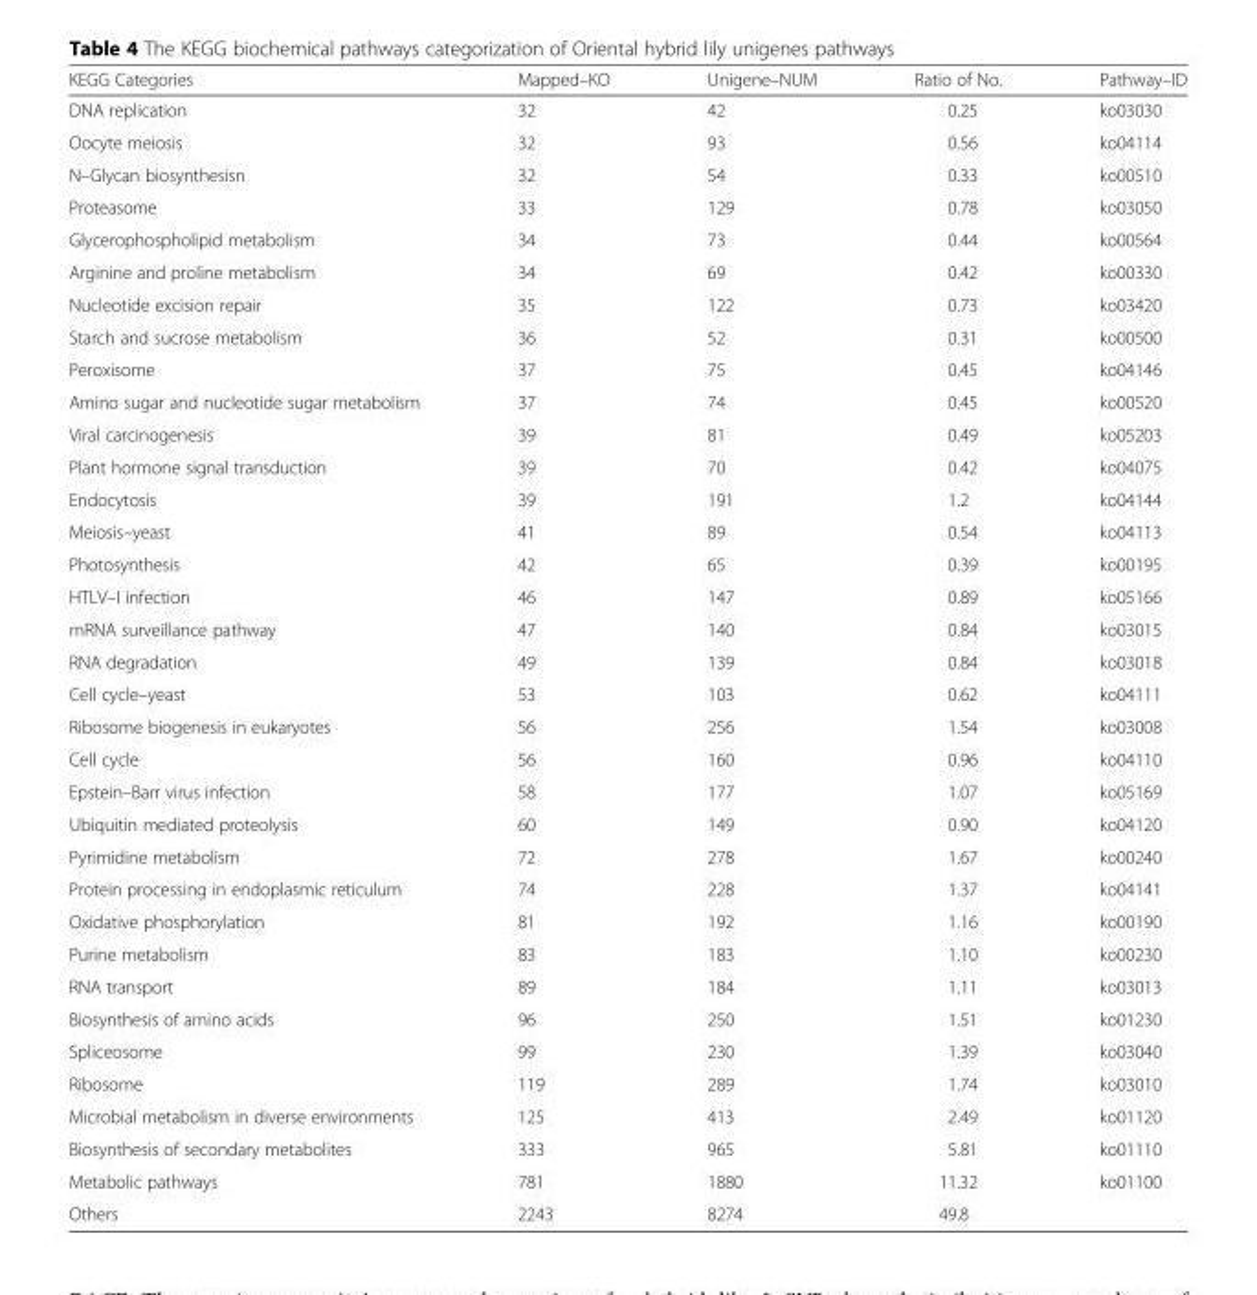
<table><thead><tr><td>KEGG Categories</td><td>Mapped–KO</td><td>Unigene–NUM</td><td>Ratio of No.</td><td>Pathway–ID</td></tr></thead><tbody><tr><td>DNA replication</td><td>32</td><td>42</td><td>0.25</td><td>ko03030</td></tr><tr><td>Oocyte meiosis</td><td>32</td><td>93</td><td>0.56</td><td>ko04114</td></tr><tr><td>N–Glycan biosynthesisn</td><td>32</td><td>54</td><td>0.33</td><td>ko00510</td></tr><tr><td>Proteasome</td><td>33</td><td>129</td><td>0.78</td><td>ko03050</td></tr><tr><td>Glycerophospholipid metabolism</td><td>34</td><td>73</td><td>0.44</td><td>ko00564</td></tr><tr><td>Arginine and proline metabolism</td><td>34</td><td>69</td><td>0.42</td><td>ko00330</td></tr><tr><td>Nucleotide excision repair</td><td>35</td><td>122</td><td>0.73</td><td>ko03420</td></tr><tr><td>Starch and sucrose metabolism</td><td>36</td><td>52</td><td>0.31</td><td>ko00500</td></tr><tr><td>Peroxisome</td><td>37</td><td>75</td><td>0.45</td><td>ko04146</td></tr><tr><td>Amino sugar and nucleotide sugar metabolism</td><td>37</td><td>74</td><td>0.45</td><td>ko00520</td></tr><tr><td>Viral carcinogenesis</td><td>39</td><td>81</td><td>0.49</td><td>ko05203</td></tr><tr><td>Plant hormone signal transduction</td><td>39</td><td>70</td><td>0.42</td><td>ko04075</td></tr><tr><td>Endocytosis</td><td>39</td><td>191</td><td>1.2</td><td>ko04144</td></tr><tr><td>Meiosis–yeast</td><td>41</td><td>89</td><td>0.54</td><td>ko04113</td></tr><tr><td>Photosynthesis</td><td>42</td><td>65</td><td>0.39</td><td>ko00195</td></tr><tr><td>HTLV–I infection</td><td>46</td><td>147</td><td>0.89</td><td>ko05166</td></tr><tr><td>mRNA surveillance pathway</td><td>47</td><td>140</td><td>0.84</td><td>ko03015</td></tr><tr><td>RNA degradation</td><td>49</td><td>139</td><td>0.84</td><td>ko03018</td></tr><tr><td>Cell cycle–yeast</td><td>53</td><td>103</td><td>0.62</td><td>ko04111</td></tr><tr><td>Ribosome biogenesis in eukaryotes</td><td>56</td><td>256</td><td>1.54</td><td>ko03008</td></tr><tr><td>Cell cycle</td><td>56</td><td>160</td><td>0.96</td><td>ko04110</td></tr><tr><td>Epstein–Barr virus infection</td><td>58</td><td>177</td><td>1.07</td><td>ko05169</td></tr><tr><td>Ubiquitin mediated proteolysis</td><td>60</td><td>149</td><td>0.90</td><td>ko04120</td></tr><tr><td>Pyrimidine metabolism</td><td>72</td><td>278</td><td>1.67</td><td>ko00240</td></tr><tr><td>Protein processing in endoplasmic reticulum</td><td>74</td><td>228</td><td>1.37</td><td>ko04141</td></tr><tr><td>Oxidative phosphorylation</td><td>81</td><td>192</td><td>1.16</td><td>ko00190</td></tr><tr><td>Purine metabolism</td><td>83</td><td>183</td><td>1.10</td><td>ko00230</td></tr><tr><td>RNA transport</td><td>89</td><td>184</td><td>1.11</td><td>ko03013</td></tr><tr><td>Biosynthesis of amino acids</td><td>96</td><td>250</td><td>1.51</td><td>ko01230</td></tr><tr><td>Spliceosome</td><td>99</td><td>230</td><td>1.39</td><td>ko03040</td></tr><tr><td>Ribosome</td><td>119</td><td>289</td><td>1.74</td><td>ko03010</td></tr><tr><td>Microbial metabolism in diverse environments</td><td>125</td><td>413</td><td>2.49</td><td>ko01120</td></tr><tr><td>Biosynthesis of secondary metabolites</td><td>333</td><td>965</td><td>5.81</td><td>ko01110</td></tr><tr><td>Metabolic pathways</td><td>781</td><td>1880</td><td>11.32</td><td>ko01100</td></tr><tr><td>Others</td><td>2243</td><td>8274</td><td>49.8</td><td></td></tr></tbody></table>